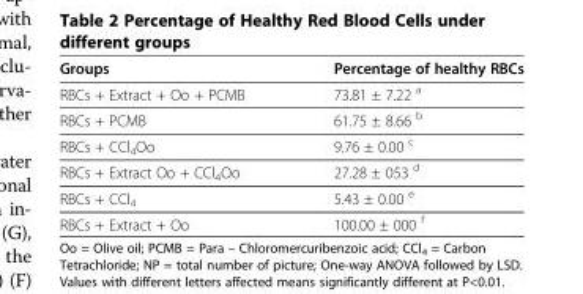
<table><thead><tr><td>Groups</td><td>Percentage of healthy RBCs</td></tr></thead><tbody><tr><td>RBCs + Extract + Oo + PCMB</td><td>73.81 ± 7.22 <sup>a</sup></td></tr><tr><td>RBCs + PCMB</td><td>61.75 ± 8.66 <sup>b</sup></td></tr><tr><td>RBCs + CCl<sub>4</sub>Oo</td><td>9.76 ± 0.00 <sup>c</sup></td></tr><tr><td>RBCs + Extract Oo + CCl<sub>4</sub>Oo</td><td>27.28 ± 053 <sup>d</sup></td></tr><tr><td>RBCs + CCl<sub>4</sub></td><td>5.43 ± 0.00 <sup>e</sup></td></tr><tr><td>RBCs + Extract + Oo</td><td>100.00 ± 000 <sup>f</sup></td></tr></tbody></table>